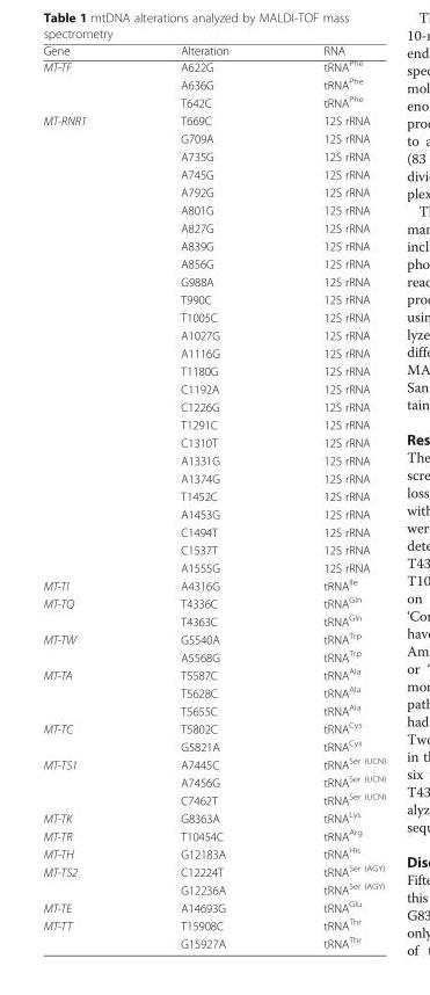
<table><thead><tr><td>Gene</td><td>Alteration</td><td>RNA</td></tr></thead><tbody><tr><td rowspan="3">MT-TF</td><td>A622G</td><td>tRNA<sup>Phe</sup></td></tr><tr><td>A636G</td><td>tRNA<sup>Phe</sup></td></tr><tr><td>T642C</td><td>tRNA<sup>Phe</sup></td></tr><tr><td rowspan="26">MT-RNR1</td><td>T669C</td><td>12S rRNA</td></tr><tr><td>G709A</td><td>12S rRNA</td></tr><tr><td>A735G</td><td>12S rRNA</td></tr><tr><td>A745G</td><td>12S rRNA</td></tr><tr><td>A792G</td><td>12S rRNA</td></tr><tr><td>A801G</td><td>12S rRNA</td></tr><tr><td>A827G</td><td>12S rRNA</td></tr><tr><td>A839G</td><td>12S rRNA</td></tr><tr><td>A856G</td><td>12S rRNA</td></tr><tr><td>G988A</td><td>12S rRNA</td></tr><tr><td>T990C</td><td>12S rRNA</td></tr><tr><td>T1005C</td><td>12S rRNA</td></tr><tr><td>A1027G</td><td>12S rRNA</td></tr><tr><td>A1116G</td><td>12S rRNA</td></tr><tr><td>T1180G</td><td>12S rRNA</td></tr><tr><td>C1192A</td><td>12S rRNA</td></tr><tr><td>C1226G</td><td>12S rRNA</td></tr><tr><td>T1291C</td><td>12S rRNA</td></tr><tr><td>C1310T</td><td>12S rRNA</td></tr><tr><td>A1331G</td><td>12S rRNA</td></tr><tr><td>A1374G</td><td>12S rRNA</td></tr><tr><td>T1452C</td><td>12S rRNA</td></tr><tr><td>A1453G</td><td>12S rRNA</td></tr><tr><td>C1494T</td><td>12S rRNA</td></tr><tr><td>C1537T</td><td>12S rRNA</td></tr><tr><td>A1555G</td><td>12S rRNA</td></tr><tr><td>MT-TI</td><td>A4316G</td><td>tRNA<sup>Ile</sup></td></tr><tr><td rowspan="2">MT-TQ</td><td>T4336C</td><td>tRNA<sup>Gln</sup></td></tr><tr><td>T4363C</td><td>tRNA<sup>Gln</sup></td></tr><tr><td rowspan="2">MT-TW</td><td>G5540A</td><td>tRNA<sup>Trp</sup></td></tr><tr><td>A5568G</td><td>tRNA<sup>Trp</sup></td></tr><tr><td rowspan="3">MT-TA</td><td>T5587C</td><td>tRNA<sup>Ala</sup></td></tr><tr><td>T5628C</td><td>tRNA<sup>Ala</sup></td></tr><tr><td>T5655C</td><td>tRNA<sup>Ala</sup></td></tr><tr><td rowspan="2">MT-TC</td><td>T5802C</td><td>tRNA<sup>Cys</sup></td></tr><tr><td>G5821A</td><td>tRNA<sup>Cys</sup></td></tr><tr><td rowspan="3">MT-TS1</td><td>A7445C</td><td>tRNA<sup>Ser (UCN)</sup></td></tr><tr><td>A7456G</td><td>tRNA<sup>Ser (UCN)</sup></td></tr><tr><td>C7462T</td><td>tRNA<sup>Ser (UCN)</sup></td></tr><tr><td>MT-TK</td><td>G8363A</td><td>tRNA<sup>Lys</sup></td></tr><tr><td>MT-TR</td><td>T10454C</td><td>tRNA<sup>Arg</sup></td></tr><tr><td>MT-TH</td><td>G12183A</td><td>tRNA<sup>His</sup></td></tr><tr><td rowspan="2">MT-TS2</td><td>C12224T</td><td>tRNA<sup>Ser (AGY)</sup></td></tr><tr><td>G12236A</td><td>tRNA<sup>Ser (AGY)</sup></td></tr><tr><td>MT-TE</td><td>A14693G</td><td>tRNA<sup>Glu</sup></td></tr><tr><td rowspan="2">MT-TT</td><td>T15908C</td><td>tRNA<sup>Thr</sup></td></tr><tr><td>G15927A</td><td>tRNA<sup>Thr</sup></td></tr></tbody></table>